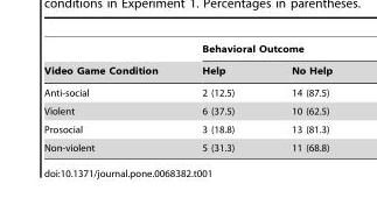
<table><thead><tr><td rowspan="2">Video Game Condition</td><td colspan="2">Behavioral Outcome</td></tr><tr><td>Help</td><td>No Help</td></tr></thead><tbody><tr><td>Anti-social</td><td>2 (12.5)</td><td>14 (87.5)</td></tr><tr><td>Violent</td><td>6 (37.5)</td><td>10 (62.5)</td></tr><tr><td>Prosocial</td><td>3 (18.8)</td><td>13 (81.3)</td></tr><tr><td>Non-violent</td><td>5 (31.3)</td><td>11 (68.8)</td></tr></tbody></table>